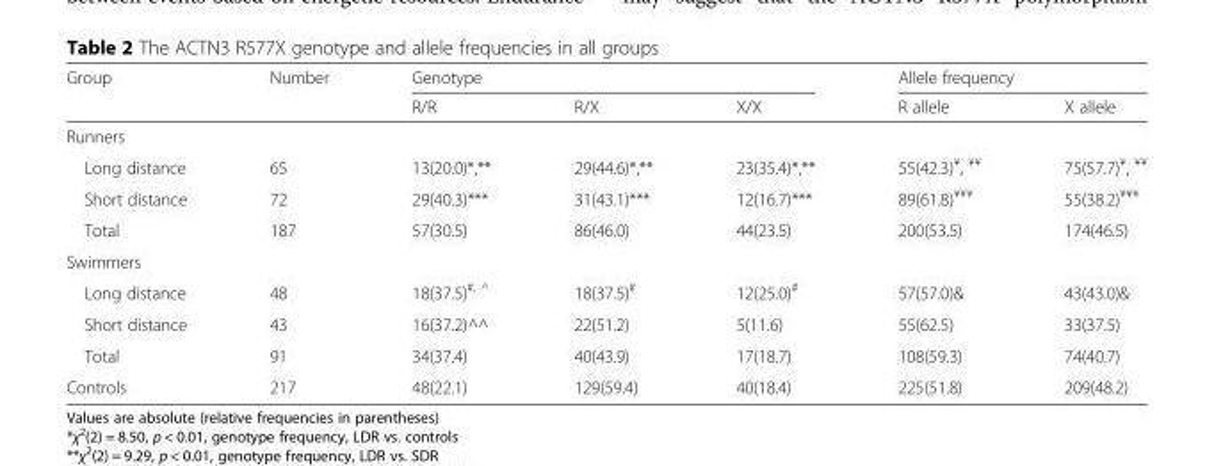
<table><thead><tr><td rowspan="2">Group</td><td rowspan="2">Number</td><td colspan="3">Genotype</td><td colspan="2">Allele frequency</td></tr><tr><td>R/R</td><td>R/X</td><td>X/X</td><td>R allele</td><td>X allele</td></tr></thead><tbody><tr><td colspan="7">Runners</td></tr><tr><td>Long distance</td><td>65</td><td>13(20.0)*,**</td><td>29(44.6)*,**</td><td>23(35.4)*,**</td><td>55(42.3)<sup>¥</sup>, <sup>¥¥</sup></td><td>75(57.7)<sup>¥</sup>, <sup>¥¥</sup></td></tr><tr><td>Short distance</td><td>72</td><td>29(40.3)***</td><td>31(43.1)***</td><td>12(16.7)***</td><td>89(61.8)<sup>¥¥¥</sup></td><td>55(38.2)<sup>¥¥¥</sup></td></tr><tr><td>Total</td><td>187</td><td>57(30.5)</td><td>86(46.0)</td><td>44(23.5)</td><td>200(53.5)</td><td>174(46.5)</td></tr><tr><td colspan="7">Swimmers</td></tr><tr><td>Long distance</td><td>48</td><td>18(37.5)#, ^</td><td>18(37.5)<sup>#</sup></td><td>12(25.0)<sup>#</sup></td><td>57(57.0)&amp;</td><td>43(43.0)&amp;</td></tr><tr><td>Short distance</td><td>43</td><td>16(37.2)^^</td><td>22(51.2)</td><td>5(11.6)</td><td>55(62.5)</td><td>33(37.5)</td></tr><tr><td>Total</td><td>91</td><td>34(37.4)</td><td>40(43.9)</td><td>17(18.7)</td><td>108(59.3)</td><td>74(40.7)</td></tr><tr><td>Controls</td><td>217</td><td>48(22.1)</td><td>129(59.4)</td><td>40(18.4)</td><td>225(51.8)</td><td>209(48.2)</td></tr></tbody></table>